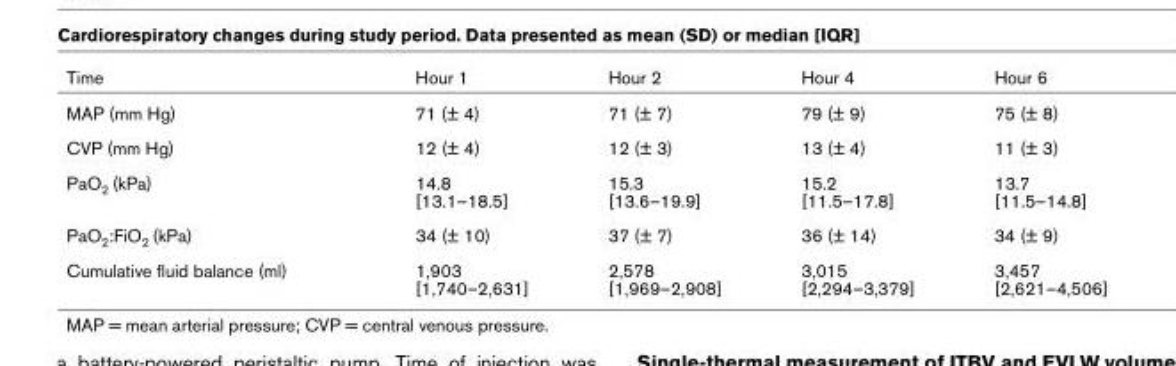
<table><thead><tr><td>Time</td><td>Hour 1</td><td>Hour 2</td><td>Hour 4</td><td>Hour 6</td></tr></thead><tbody><tr><td>MAP (mm Hg)</td><td>71 (± 4)</td><td>71 (± 7)</td><td>79 (± 9)</td><td>75 (± 8)</td></tr><tr><td>CVP (mm Hg)</td><td>12 (± 4)</td><td>12 (± 3)</td><td>13 (± 4)</td><td>11 (± 3)</td></tr><tr><td>PaO<sub>2</sub> (kPa)</td><td>14.8 [13.1–18.5]</td><td>15.3 [13.6–19.9]</td><td>15.2 [11.5–17.8]</td><td>13.7 [11.5–14.8]</td></tr><tr><td>PaO<sub>2</sub>:FiO<sub>2</sub> (kPa)</td><td>34 (± 10)</td><td>37 (± 7)</td><td>36 (± 14)</td><td>34 (± 9)</td></tr><tr><td>Cumulative fluid balance (ml)</td><td>1,903 [1,740–2,631]</td><td>2,578 [1,969–2,908]</td><td>3,015 [2,294–3,379]</td><td>3,457 [2,621–4,506]</td></tr></tbody></table>